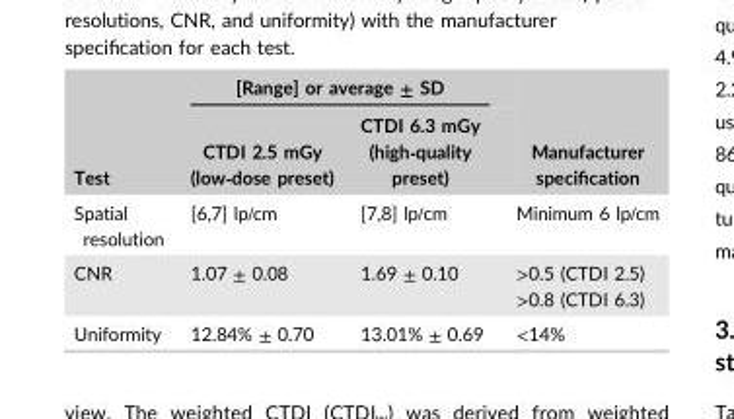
<table><thead><tr><td rowspan="2">Test</td><td colspan="2">[Range] or average ± SD</td><td rowspan="2">Manufacturer specification</td></tr><tr><td>CTDI 2.5 mGy (low‐dose preset)</td><td>CTDI 6.3 mGy (high‐quality preset)</td></tr></thead><tbody><tr><td>Spatial resolution</td><td>[6,7] lp/cm</td><td>[7,8] lp/cm</td><td>Minimum 6 lp/cm</td></tr><tr><td>CNR</td><td>1.07 ± 0.08</td><td>1.69 ± 0.10</td><td>&gt;0.5 (CTDI 2.5) &gt;0.8 (CTDI 6.3)</td></tr><tr><td>Uniformity</td><td>12.84% ± 0.70</td><td>13.01% ± 0.69</td><td>&lt;14%</td></tr></tbody></table>